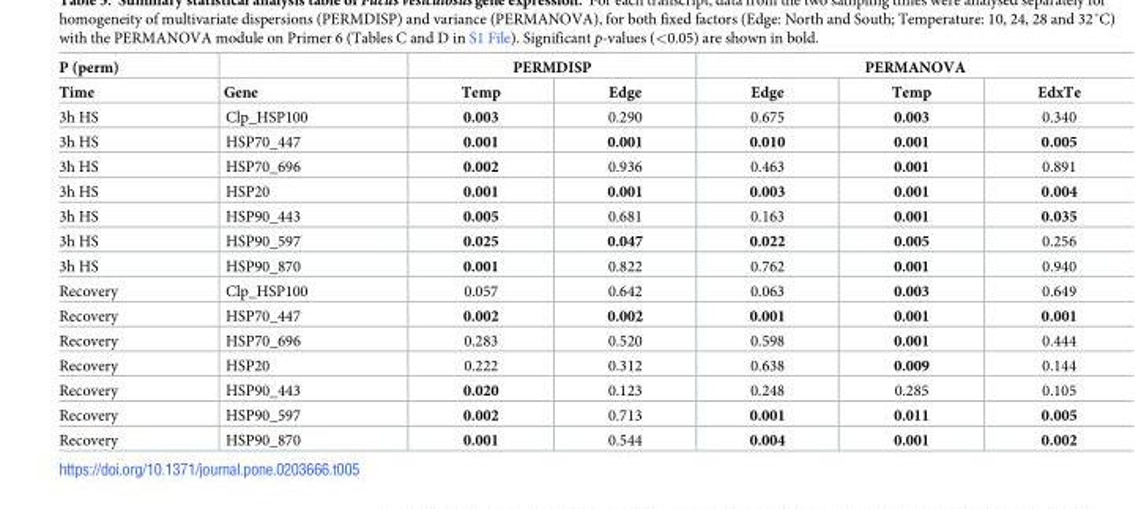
<table><thead><tr><td rowspan="2">P (perm) Time</td><td rowspan="2">Gene</td><td colspan="2">PERMDISP</td><td colspan="3">PERMANOVA</td></tr><tr><td>Temp</td><td>Edge</td><td>Edge</td><td>Temp</td><td>EdxTe</td></tr></thead><tbody><tr><td>3h HS</td><td>Clp_HSP100</td><td>0.003</td><td>0.290</td><td>0.675</td><td>0.003</td><td>0.340</td></tr><tr><td>3h HS</td><td>HSP70_447</td><td>0.001</td><td>0.001</td><td>0.010</td><td>0.001</td><td>0.005</td></tr><tr><td>3h HS</td><td>HSP70_696</td><td>0.002</td><td>0.936</td><td>0.463</td><td>0.001</td><td>0.891</td></tr><tr><td>3h HS</td><td>HSP20</td><td>0.001</td><td>0.001</td><td>0.003</td><td>0.001</td><td>0.004</td></tr><tr><td>3h HS</td><td>HSP90_443</td><td>0.005</td><td>0.681</td><td>0.163</td><td>0.001</td><td>0.035</td></tr><tr><td>3h HS</td><td>HSP90_597</td><td>0.025</td><td>0.047</td><td>0.022</td><td>0.005</td><td>0.256</td></tr><tr><td>3h HS</td><td>HSP90_870</td><td>0.001</td><td>0.822</td><td>0.762</td><td>0.001</td><td>0.940</td></tr><tr><td>Recovery</td><td>Clp_HSP100</td><td>0.057</td><td>0.642</td><td>0.063</td><td>0.003</td><td>0.649</td></tr><tr><td>Recovery</td><td>HSP70_447</td><td>0.002</td><td>0.002</td><td>0.001</td><td>0.001</td><td>0.001</td></tr><tr><td>Recovery</td><td>HSP70_696</td><td>0.283</td><td>0.520</td><td>0.598</td><td>0.001</td><td>0.444</td></tr><tr><td>Recovery</td><td>HSP20</td><td>0.222</td><td>0.312</td><td>0.638</td><td>0.009</td><td>0.144</td></tr><tr><td>Recovery</td><td>HSP90_443</td><td>0.020</td><td>0.123</td><td>0.248</td><td>0.285</td><td>0.105</td></tr><tr><td>Recovery</td><td>HSP90_597</td><td>0.002</td><td>0.713</td><td>0.001</td><td>0.011</td><td>0.005</td></tr><tr><td>Recovery</td><td>HSP90_870</td><td>0.001</td><td>0.544</td><td>0.004</td><td>0.001</td><td>0.002</td></tr></tbody></table>